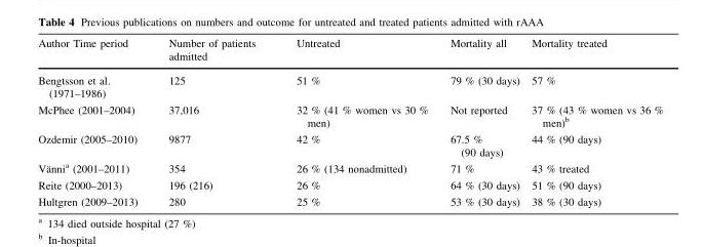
<table><thead><tr><td>Author Time period</td><td>Number of patients admitted</td><td>Untreated</td><td>Mortality all</td><td>Mortality treated</td></tr></thead><tbody><tr><td>Bengtsson et al. (1971–1986)</td><td>125</td><td>51 %</td><td>79 % (30 days)</td><td>57 %</td></tr><tr><td>McPhee (2001–2004)</td><td>37,016</td><td>32 % (41 % women vs 30 % men)</td><td>Not reported</td><td>37 % (43 % women vs 36 % men)<sup>b</sup></td></tr><tr><td>Ozdemir (2005–2010)</td><td>9877</td><td>42 %</td><td>67.5 % (90 days)</td><td>44 % (90 days)</td></tr><tr><td>Va¨nnia (2001–2011)</td><td>354</td><td>26 % (134 nonadmitted)</td><td>71 %</td><td>43 % treated</td></tr><tr><td>Reite (2000–2013)</td><td>196 (216)</td><td>26 %</td><td>64 % (30 days)</td><td>51 % (90 days)</td></tr><tr><td>Hultgren (2009–2013)</td><td>280</td><td>25 %</td><td>53 % (30 days)</td><td>38 % (30 days)</td></tr></tbody></table>